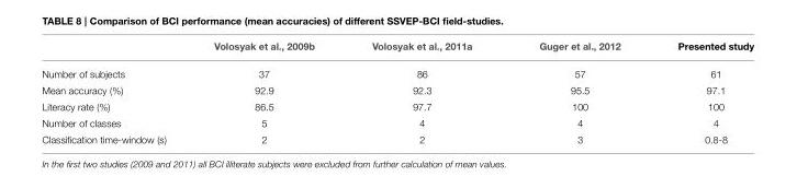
<table><thead><tr><td></td><td>Volosyak et al., 2009b</td><td>Volosyak et al., 2011a</td><td>Guger et al., 2012</td><td>Presented study</td></tr></thead><tbody><tr><td>Number of subjects</td><td>37</td><td>86</td><td>57</td><td>61</td></tr><tr><td>Mean accuracy (%)</td><td>92.9</td><td>92.3</td><td>95.5</td><td>97.1</td></tr><tr><td>Literacy rate (%)</td><td>86.5</td><td>97.7</td><td>100</td><td>100</td></tr><tr><td>Number of classes</td><td>5</td><td>4</td><td>4</td><td>4</td></tr><tr><td>Classification time-window (s)</td><td>2</td><td>2</td><td>3</td><td>0.8-8</td></tr></tbody></table>